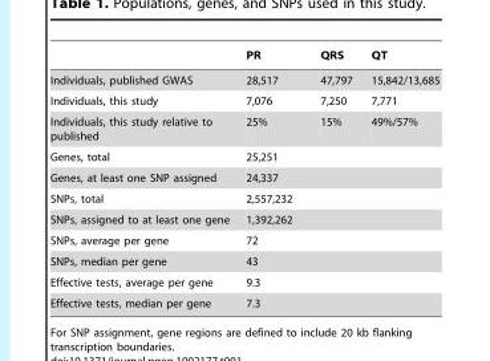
<table><thead><tr><td></td><td>PR</td><td>QRS</td><td>QT</td></tr></thead><tbody><tr><td>Individuals, published GWAS</td><td>28,517</td><td>47,797</td><td>15,842/13,685</td></tr><tr><td>Individuals, this study</td><td>7,076</td><td>7,250</td><td>7,771</td></tr><tr><td>Individuals, this study relative to published</td><td>25%</td><td>15%</td><td>49%/57%</td></tr><tr><td>Genes, total</td><td colspan="3">25,251</td></tr><tr><td>Genes, at least one SNP assigned</td><td colspan="3">24,337</td></tr><tr><td>SNPs, total</td><td colspan="3">2,557,232</td></tr><tr><td>SNPs, assigned to at least one gene</td><td colspan="3">1,392,262</td></tr><tr><td>SNPs, average per gene</td><td colspan="3">72</td></tr><tr><td>SNPs, median per gene</td><td colspan="3">43</td></tr><tr><td>Effective tests, average per gene</td><td colspan="3">9.3</td></tr><tr><td>Effective tests, median per gene</td><td colspan="3">7.3</td></tr></tbody></table>